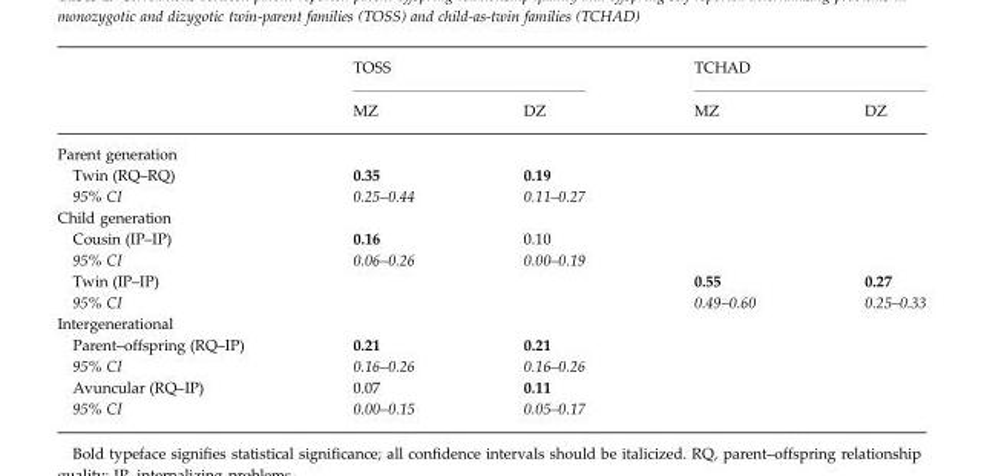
<table><thead><tr><td rowspan="2"></td><td colspan="2">TOSS</td><td colspan="2">TCHAD</td></tr><tr><td>MZ</td><td>DZ</td><td>MZ</td><td>DZ</td></tr></thead><tbody><tr><td colspan="5">Parent generation</td></tr><tr><td>Twin (RQ–RQ)</td><td>0.35</td><td>0.19</td><td></td><td></td></tr><tr><td>95% CI</td><td>0.25–0.44</td><td>0.11–0.27</td><td></td><td></td></tr><tr><td colspan="5">Child generation</td></tr><tr><td>Cousin (IP–IP)</td><td>0.16</td><td>0.10</td><td></td><td></td></tr><tr><td>95% CI</td><td>0.06–0.26</td><td>0.00–0.19</td><td></td><td></td></tr><tr><td>Twin (IP–IP)</td><td></td><td></td><td>0.55</td><td>0.27</td></tr><tr><td>95% CI</td><td></td><td></td><td>0.49–0.60</td><td>0.25–0.33</td></tr><tr><td colspan="5">Intergenerational</td></tr><tr><td>Parent–offspring (RQ–IP)</td><td>0.21</td><td>0.21</td><td></td><td></td></tr><tr><td>95% CI</td><td>0.16–0.26</td><td>0.16–0.26</td><td></td><td></td></tr><tr><td>Avuncular (RQ–IP)</td><td>0.07</td><td>0.11</td><td></td><td></td></tr><tr><td>95% CI</td><td>0.00–0.15</td><td>0.05–0.17</td><td></td><td></td></tr></tbody></table>